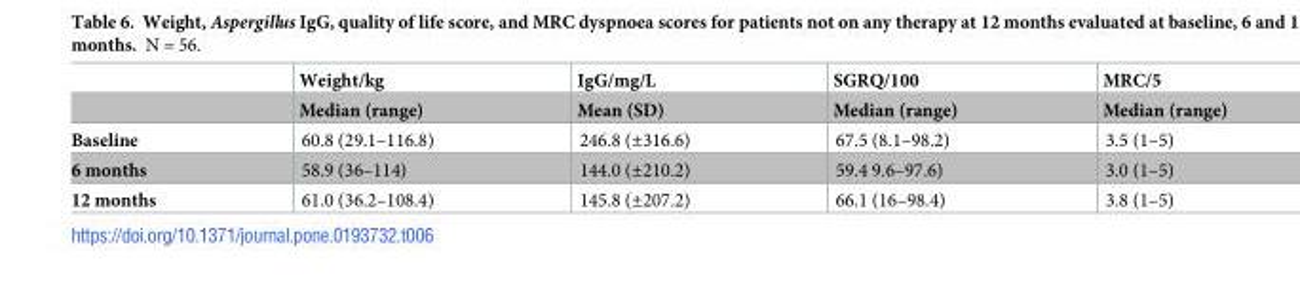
<table><thead><tr><td rowspan="2"></td><td rowspan="2">Weight/kg Median (range)</td><td rowspan="2">IgG/mg/L Mean (SD)</td><td rowspan="2">SGRQ/100 Median (range)</td><td rowspan="2">MRC/5 Median (range)</td></tr><tr></tr></thead><tbody><tr><td>Baseline</td><td>60.8 (29.1–116.8)</td><td>246.8 (±316.6)</td><td>67.5 (8.1–98.2)</td><td>3.5 (1–5)</td></tr><tr><td>6 months</td><td>58.9 (36–114)</td><td>144.0 (±210.2)</td><td>59.4 9.6–97.6)</td><td>3.0 (1–5)</td></tr><tr><td>12 months</td><td>61.0 (36.2–108.4)</td><td>145.8 (±207.2)</td><td>66.1 (16–98.4)</td><td>3.8 (1–5)</td></tr></tbody></table>